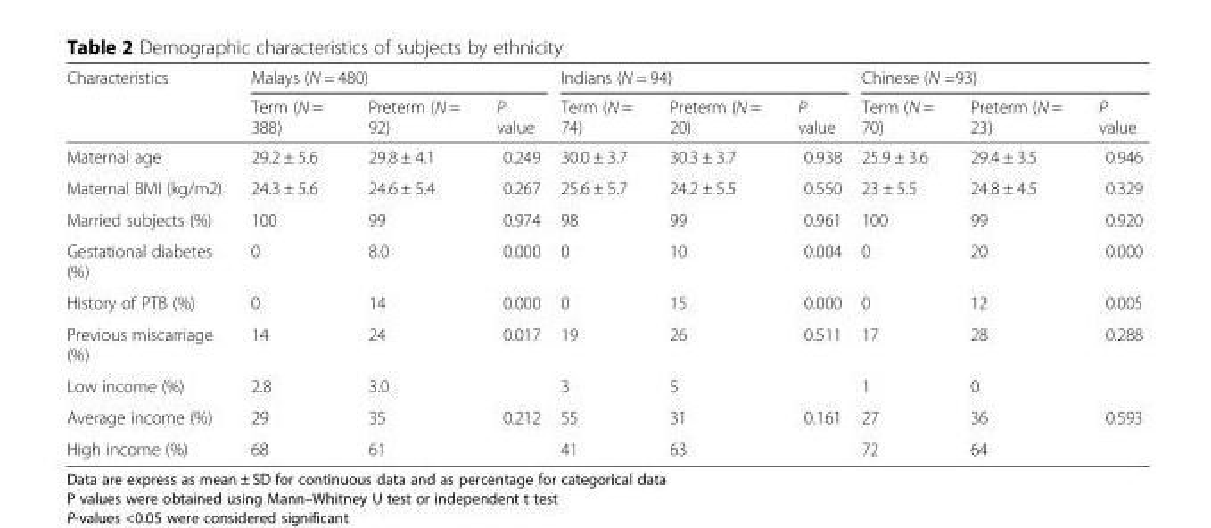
<table><thead><tr><td rowspan="2">Characteristics</td><td colspan="3">Malays (N = 480)</td><td colspan="3">Indians (N = 94)</td><td colspan="3">Chinese (N =93)</td></tr><tr><td>Term (N = 388)</td><td>Preterm (N = 92)</td><td>P value</td><td>Term (N = 74)</td><td>Preterm (N = 20)</td><td>P value</td><td>Term (N = 70)</td><td>Preterm (N = 23)</td><td>P value</td></tr></thead><tbody><tr><td>Maternal age</td><td>29.2 ± 5.6</td><td>29.8 ± 4.1</td><td>0.249</td><td>30.0 ± 3.7</td><td>30.3 ± 3.7</td><td>0.938</td><td>25.9 ± 3.6</td><td>29.4 ± 3.5</td><td>0.946</td></tr><tr><td>Maternal BMI (kg/m2)</td><td>24.3 ± 5.6</td><td>24.6 ± 5.4</td><td>0.267</td><td>25.6 ± 5.7</td><td>24.2 ± 5.5</td><td>0.550</td><td>23 ± 5.5</td><td>24.8 ± 4.5</td><td>0.329</td></tr><tr><td>Married subjects (%)</td><td>100</td><td>99</td><td>0.974</td><td>98</td><td>99</td><td>0.961</td><td>100</td><td>99</td><td>0.920</td></tr><tr><td>Gestational diabetes (%)</td><td>0</td><td>8.0</td><td>0.000</td><td>0</td><td>10</td><td>0.004</td><td>0</td><td>20</td><td>0.000</td></tr><tr><td>History of PTB (%)</td><td>0</td><td>14</td><td>0.000</td><td>0</td><td>15</td><td>0.000</td><td>0</td><td>12</td><td>0.005</td></tr><tr><td>Previous miscarriage (%)</td><td>14</td><td>24</td><td>0.017</td><td>19</td><td>26</td><td>0.511</td><td>17</td><td>28</td><td>0.288</td></tr><tr><td>Low income (%)</td><td>2.8</td><td>3.0</td><td></td><td>3</td><td>5</td><td></td><td>1</td><td>0</td><td></td></tr><tr><td>Average income (%)</td><td>29</td><td>35</td><td>0.212</td><td>55</td><td>31</td><td>0.161</td><td>27</td><td>36</td><td>0.593</td></tr><tr><td>High income (%)</td><td>68</td><td>61</td><td></td><td>41</td><td>63</td><td></td><td>72</td><td>64</td><td></td></tr></tbody></table>